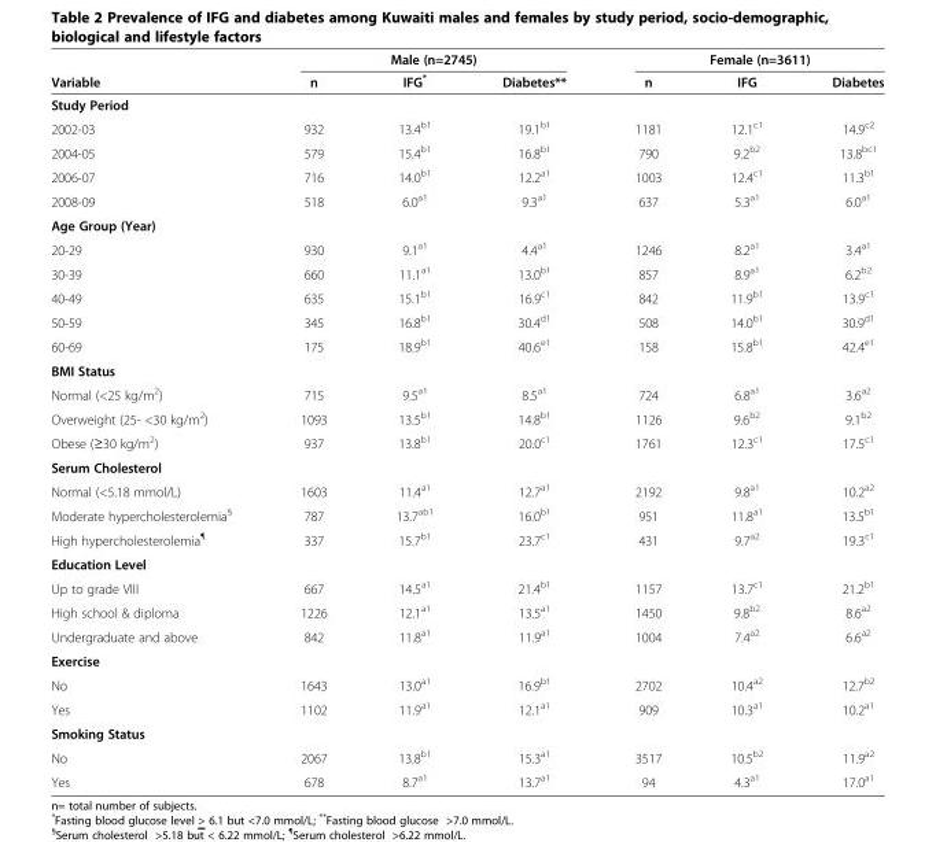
<table><thead><tr><td rowspan="2">Variable</td><td colspan="3">Male (n=2745)</td><td colspan="3">Female (n=3611)</td></tr><tr><td>n</td><td>IFG*</td><td>Diabetes**</td><td>n</td><td>IFG</td><td>Diabetes</td></tr></thead><tbody><tr><td colspan="7">Study Period</td></tr><tr><td>2002-03</td><td>932</td><td>13.4<sup>b1</sup></td><td>19.1<sup>b1</sup></td><td>1181</td><td>12.1<sup>c1</sup></td><td>14.9<sup>c2</sup></td></tr><tr><td>2004-05</td><td>579</td><td>15.4<sup>b1</sup></td><td>16.8<sup>b1</sup></td><td>790</td><td>9.2<sup>b2</sup></td><td>13.8<sup>bc1</sup></td></tr><tr><td>2006-07</td><td>716</td><td>14.0<sup>b1</sup></td><td>12.2<sup>a1</sup></td><td>1003</td><td>12.4<sup>c1</sup></td><td>11.3<sup>b1</sup></td></tr><tr><td>2008-09</td><td>518</td><td>6.0<sup>a1</sup></td><td>9.3<sup>a1</sup></td><td>637</td><td>5.3<sup>a1</sup></td><td>6.0<sup>a1</sup></td></tr><tr><td colspan="7">Age Group (Year)</td></tr><tr><td>20-29</td><td>930</td><td>9.1<sup>a1</sup></td><td>4.4<sup>a1</sup></td><td>1246</td><td>8.2<sup>a1</sup></td><td>3.4<sup>a1</sup></td></tr><tr><td>30-39</td><td>660</td><td>11.1<sup>a1</sup></td><td>13.0<sup>b1</sup></td><td>857</td><td>8.9<sup>a1</sup></td><td>6.2<sup>b2</sup></td></tr><tr><td>40-49</td><td>635</td><td>15.1<sup>b1</sup></td><td>16.9<sup>c1</sup></td><td>842</td><td>11.9<sup>b1</sup></td><td>13.9<sup>c1</sup></td></tr><tr><td>50-59</td><td>345</td><td>16.8<sup>b1</sup></td><td>30.4<sup>d1</sup></td><td>508</td><td>14.0<sup>b1</sup></td><td>30.9<sup>d1</sup></td></tr><tr><td>60-69</td><td>175</td><td>18.9<sup>b1</sup></td><td>40.6<sup>e1</sup></td><td>158</td><td>15.8<sup>b1</sup></td><td>42.4<sup>e1</sup></td></tr><tr><td colspan="7">BMI Status</td></tr><tr><td>Normal (&lt;25 kg/m<sup>2</sup>)</td><td>715</td><td>9.5<sup>a1</sup></td><td>8.5<sup>a1</sup></td><td>724</td><td>6.8<sup>a1</sup></td><td>3.6<sup>a2</sup></td></tr><tr><td>Overweight (25- &lt;30 kg/m<sup>2</sup>)</td><td>1093</td><td>13.5<sup>b1</sup></td><td>14.8<sup>b1</sup></td><td>1126</td><td>9.6<sup>b2</sup></td><td>9.1<sup>b2</sup></td></tr><tr><td>Obese (≥30 kg/m<sup>2</sup>)</td><td>937</td><td>13.8<sup>b1</sup></td><td>20.0<sup>c1</sup></td><td>1761</td><td>12.3<sup>c1</sup></td><td>17.5<sup>c1</sup></td></tr><tr><td colspan="7">Serum Cholesterol</td></tr><tr><td>Normal (&lt;5.18 mmol/L)</td><td>1603</td><td>11.4<sup>a1</sup></td><td>12.7<sup>a1</sup></td><td>2192</td><td>9.8<sup>a1</sup></td><td>10.2<sup>a2</sup></td></tr><tr><td>Moderate hypercholesterolemia<sup>§</sup></td><td>787</td><td>13.7<sup>ab1</sup></td><td>16.0<sup>b1</sup></td><td>951</td><td>11.8<sup>a1</sup></td><td>13.5<sup>b1</sup></td></tr><tr><td>High hypercholesterolemia<sup>¶</sup></td><td>337</td><td>15.7<sup>b1</sup></td><td>23.7<sup>c1</sup></td><td>431</td><td>9.7<sup>a2</sup></td><td>19.3<sup>c1</sup></td></tr><tr><td colspan="7">Education Level</td></tr><tr><td>Up to grade VIII</td><td>667</td><td>14.5<sup>a1</sup></td><td>21.4<sup>b1</sup></td><td>1157</td><td>13.7<sup>c1</sup></td><td>21.2<sup>b1</sup></td></tr><tr><td>High school &amp; diploma</td><td>1226</td><td>12.1<sup>a1</sup></td><td>13.5<sup>a1</sup></td><td>1450</td><td>9.8<sup>b2</sup></td><td>8.6<sup>a2</sup></td></tr><tr><td>Undergraduate and above</td><td>842</td><td>11.8<sup>a1</sup></td><td>11.9<sup>a1</sup></td><td>1004</td><td>7.4<sup>a2</sup></td><td>6.6<sup>a2</sup></td></tr><tr><td colspan="7">Exercise</td></tr><tr><td>No</td><td>1643</td><td>13.0<sup>a1</sup></td><td>16.9<sup>b1</sup></td><td>2702</td><td>10.4<sup>a2</sup></td><td>12.7<sup>b2</sup></td></tr><tr><td>Yes</td><td>1102</td><td>11.9<sup>a1</sup></td><td>12.1<sup>a1</sup></td><td>909</td><td>10.3<sup>a1</sup></td><td>10.2<sup>a1</sup></td></tr><tr><td colspan="7">Smoking Status</td></tr><tr><td>No</td><td>2067</td><td>13.8<sup>b1</sup></td><td>15.3<sup>a1</sup></td><td>3517</td><td>10.5<sup>b2</sup></td><td>11.9<sup>a2</sup></td></tr><tr><td>Yes</td><td>678</td><td>8.7<sup>a1</sup></td><td>13.7<sup>a1</sup></td><td>94</td><td>4.3<sup>a1</sup></td><td>17.0<sup>a1</sup></td></tr></tbody></table>